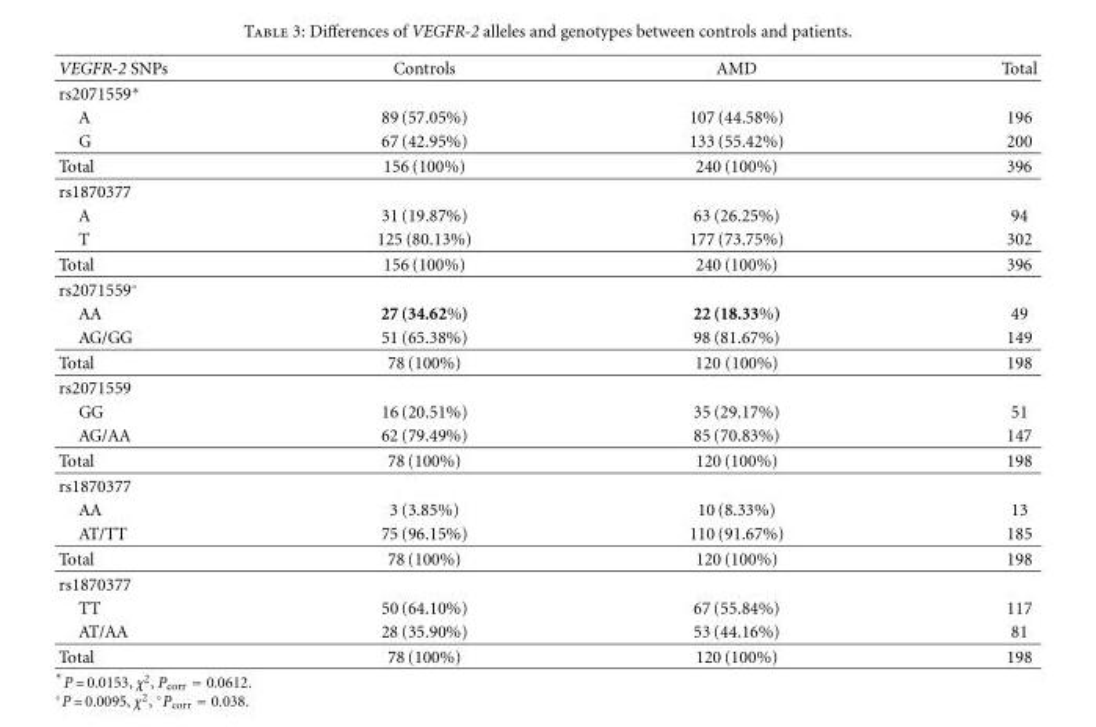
<table><thead><tr><td>VEGFR-2 SNPs</td><td>Controls</td><td>AMD</td><td>Total</td></tr></thead><tbody><tr><td colspan="4">rs2071559∗</td></tr><tr><td>A</td><td>89 (57.05%)</td><td>107 (44.58%)</td><td>196</td></tr><tr><td>G</td><td>67 (42.95%)</td><td>133 (55.42%)</td><td>200</td></tr><tr><td>Total</td><td>156 (100%)</td><td>240 (100%)</td><td>396</td></tr><tr><td colspan="4">rs1870377</td></tr><tr><td>A</td><td>31 (19.87%)</td><td>63 (26.25%)</td><td>94</td></tr><tr><td>T</td><td>125 (80.13%)</td><td>177 (73.75%)</td><td>302</td></tr><tr><td>Total</td><td>156 (100%)</td><td>240 (100%)</td><td>396</td></tr><tr><td colspan="4">rs2071559◦</td></tr><tr><td>AA</td><td>27 (34.62%)</td><td>22 (18.33%)</td><td>49</td></tr><tr><td>AG/GG</td><td>51 (65.38%)</td><td>98 (81.67%)</td><td>149</td></tr><tr><td>Total</td><td>78 (100%)</td><td>120 (100%)</td><td>198</td></tr><tr><td colspan="4">rs2071559</td></tr><tr><td>GG</td><td>16 (20.51%)</td><td>35 (29.17%)</td><td>51</td></tr><tr><td>AG/AA</td><td>62 (79.49%)</td><td>85 (70.83%)</td><td>147</td></tr><tr><td>Total</td><td>78 (100%)</td><td>120 (100%)</td><td>198</td></tr><tr><td colspan="4">rs1870377</td></tr><tr><td>AA</td><td>3 (3.85%)</td><td>10 (8.33%)</td><td>13</td></tr><tr><td>AT/TT</td><td>75 (96.15%)</td><td>110 (91.67%)</td><td>185</td></tr><tr><td>Total</td><td>78 (100%)</td><td>120 (100%)</td><td>198</td></tr><tr><td colspan="4">rs1870377</td></tr><tr><td>TT</td><td>50 (64.10%)</td><td>67 (55.84%)</td><td>117</td></tr><tr><td>AT/AA</td><td>28 (35.90%)</td><td>53 (44.16%)</td><td>81</td></tr><tr><td>Total</td><td>78 (100%)</td><td>120 (100%)</td><td>198</td></tr></tbody></table>